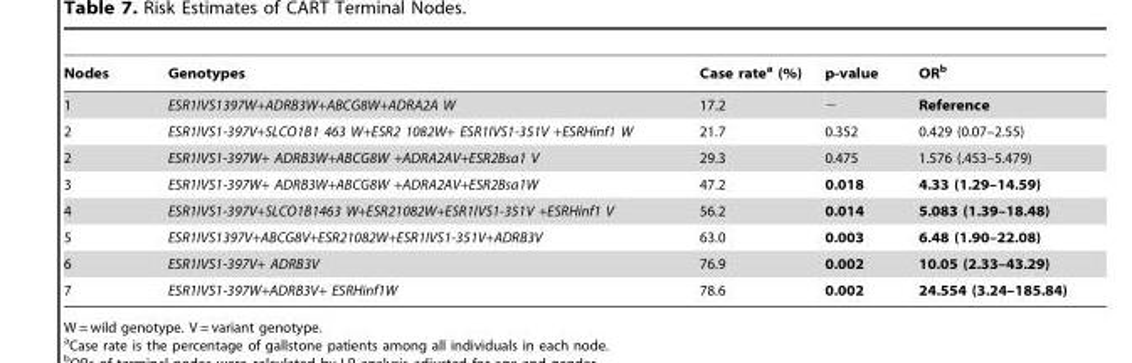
<table><thead><tr><td>Nodes</td><td>Genotypes</td><td>Case rate<sup>a</sup> (%)</td><td>p-value</td><td>OR<sup>b</sup></td></tr></thead><tbody><tr><td>1</td><td>ESR1IVS1397W+ADRB3W+ABCG8W+ADRA2A W</td><td>17.2</td><td>−</td><td>Reference</td></tr><tr><td>2</td><td>ESR1IVS1-397V+SLCO1B1 463 W+ESR2 1082W+ ESR1IVS1-351V +ESRHinf1 W</td><td>21.7</td><td>0.352</td><td>0.429 (0.07–2.55)</td></tr><tr><td>2</td><td>ESR1IVS1-397W+ ADRB3W+ABCG8W +ADRA2AV+ESR2Bsa1 V</td><td>29.3</td><td>0.475</td><td>1.576 (.453–5.479)</td></tr><tr><td>3</td><td>ESR1IVS1-397W+ ADRB3W+ABCG8W +ADRA2AV+ESR2Bsa1W</td><td>47.2</td><td>0.018</td><td>4.33 (1.29–14.59)</td></tr><tr><td>4</td><td>ESR1IVS1-397V+SLCO1B1463 W+ESR21082W+ESR1IVS1-351V +ESRHinf1 V</td><td>56.2</td><td>0.014</td><td>5.083 (1.39–18.48)</td></tr><tr><td>5</td><td>ESR1IVS1397V+ABCG8V+ESR21082W+ESR1IVS1-351V+ADRB3V</td><td>63.0</td><td>0.003</td><td>6.48 (1.90–22.08)</td></tr><tr><td>6</td><td>ESR1IVS1-397V+ ADRB3V</td><td>76.9</td><td>0.002</td><td>10.05 (2.33–43.29)</td></tr><tr><td>7</td><td>ESR1IVS1-397W+ADRB3V+ ESRHinf1W</td><td>78.6</td><td>0.002</td><td>24.554 (3.24–185.84)</td></tr></tbody></table>